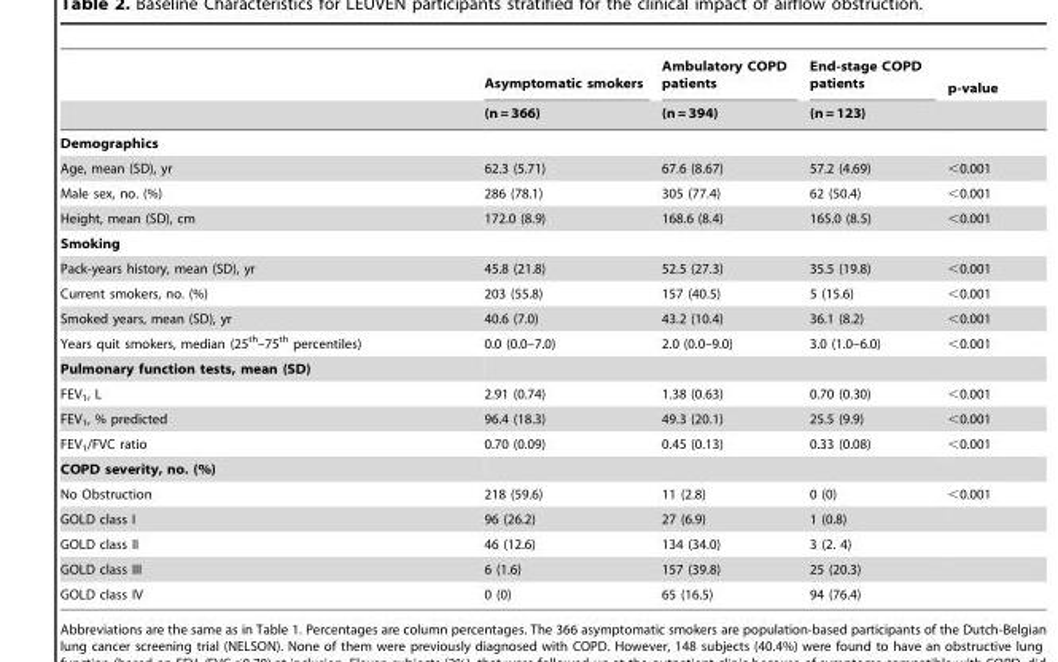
<table><thead><tr><td rowspan="2"></td><td rowspan="2">Asymptomatic smokers (n = 366)</td><td rowspan="2">Ambulatory COPD patients (n = 394)</td><td rowspan="2">End-stage COPD patients (n = 123)</td><td rowspan="2">p-value</td></tr><tr></tr></thead><tbody><tr><td colspan="5">Demographics</td></tr><tr><td>Age, mean (SD), yr</td><td>62.3 (5.71)</td><td>67.6 (8.67)</td><td>57.2 (4.69)</td><td>&lt;0.001</td></tr><tr><td>Male sex, no. (%)</td><td>286 (78.1)</td><td>305 (77.4)</td><td>62 (50.4)</td><td>&lt;0.001</td></tr><tr><td>Height, mean (SD), cm</td><td>172.0 (8.9)</td><td>168.6 (8.4)</td><td>165.0 (8.5)</td><td>&lt;0.001</td></tr><tr><td colspan="5">Smoking</td></tr><tr><td>Pack-years history, mean (SD), yr</td><td>45.8 (21.8)</td><td>52.5 (27.3)</td><td>35.5 (19.8)</td><td>&lt;0.001</td></tr><tr><td>Current smokers, no. (%)</td><td>203 (55.8)</td><td>157 (40.5)</td><td>5 (15.6)</td><td>&lt;0.001</td></tr><tr><td>Smoked years, mean (SD), yr</td><td>40.6 (7.0)</td><td>43.2 (10.4)</td><td>36.1 (8.2)</td><td>&lt;0.001</td></tr><tr><td>Years quit smokers, median (25<sup>th</sup>–75<sup>th</sup> percentiles)</td><td>0.0 (0.0–7.0)</td><td>2.0 (0.0–9.0)</td><td>3.0 (1.0–6.0)</td><td>&lt;0.001</td></tr><tr><td colspan="5">Pulmonary function tests, mean (SD)</td></tr><tr><td>FEV<sub>1</sub>, L</td><td>2.91 (0.74)</td><td>1.38 (0.63)</td><td>0.70 (0.30)</td><td>&lt;0.001</td></tr><tr><td>FEV<sub>1</sub>, % predicted</td><td>96.4 (18.3)</td><td>49.3 (20.1)</td><td>25.5 (9.9)</td><td>&lt;0.001</td></tr><tr><td>FEV<sub>1</sub>/FVC ratio</td><td>0.70 (0.09)</td><td>0.45 (0.13)</td><td>0.33 (0.08)</td><td>&lt;0.001</td></tr><tr><td colspan="5">COPD severity, no. (%)</td></tr><tr><td>No Obstruction</td><td>218 (59.6)</td><td>11 (2.8)</td><td>0 (0)</td><td>&lt;0.001</td></tr><tr><td>GOLD class I</td><td>96 (26.2)</td><td>27 (6.9)</td><td>1 (0.8)</td><td></td></tr><tr><td>GOLD class II</td><td>46 (12.6)</td><td>134 (34.0)</td><td>3 (2. 4)</td><td></td></tr><tr><td>GOLD class III</td><td>6 (1.6)</td><td>157 (39.8)</td><td>25 (20.3)</td><td></td></tr><tr><td>GOLD class IV</td><td>0 (0)</td><td>65 (16.5)</td><td>94 (76.4)</td><td></td></tr></tbody></table>